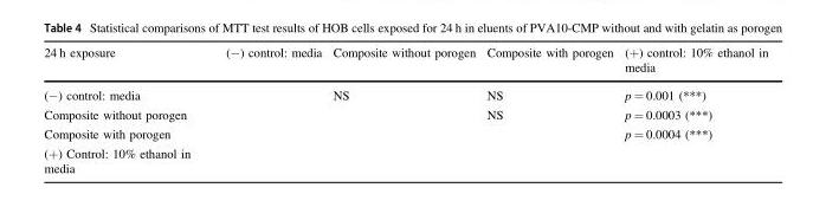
<table><thead><tr><td>24 h exposure</td><td>(−) control: media</td><td>Composite without porogen</td><td>Composite with porogen</td><td>(+) control: 10% ethanol in media</td></tr></thead><tbody><tr><td>(−) control: media</td><td></td><td>NS</td><td>NS</td><td>p = 0.001 (***)</td></tr><tr><td>Composite without porogen</td><td></td><td></td><td>NS</td><td>p = 0.0003 (***)</td></tr><tr><td>Composite with porogen</td><td></td><td></td><td></td><td>p = 0.0004 (***)</td></tr><tr><td>(+) Control: 10% ethanol in media</td><td></td><td></td><td></td><td></td></tr></tbody></table>